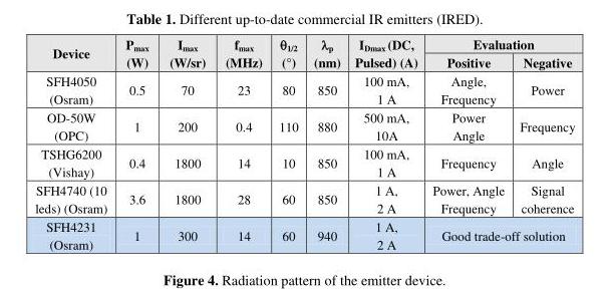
<table><thead><tr><td rowspan="2">Device</td><td rowspan="2">P<sub>max</sub> (W)</td><td rowspan="2">I<sub>max</sub> (W/sr)</td><td rowspan="2">f<sub>max</sub> (MHz)</td><td rowspan="2">θ<sub>1/2</sub> (°)</td><td rowspan="2">λ<sub>p</sub> (nm)</td><td rowspan="2">I<sub>Dmax</sub> (DC, Pulsed) (A)</td><td colspan="2">Evaluation</td></tr><tr><td>Positive</td><td>Negative</td></tr></thead><tbody><tr><td>SFH4050 (Osram)</td><td>0.5</td><td>70</td><td>23</td><td>80</td><td>850</td><td>100 mA, 1 A</td><td>Angle, Frequency</td><td>Power</td></tr><tr><td>OD-50W (OPC)</td><td>1</td><td>200</td><td>0.4</td><td>110</td><td>880</td><td>500 mA, 10A</td><td>Power Angle</td><td>Frequency</td></tr><tr><td>TSHG6200 (Vishay)</td><td>0.4</td><td>1800</td><td>14</td><td>10</td><td>850</td><td>100 mA, 1 A</td><td>Frequency</td><td>Angle</td></tr><tr><td>SFH4740 (10 leds) (Osram)</td><td>3.6</td><td>1800</td><td>28</td><td>60</td><td>850</td><td>1 A, 2 A</td><td>Power, Angle Frequency</td><td>Signal coherence</td></tr><tr><td>SFH4231 (Osram)</td><td>1</td><td>300</td><td>14</td><td>60</td><td>940</td><td>1 A, 2 A</td><td colspan="2">Good trade-off solution</td></tr></tbody></table>